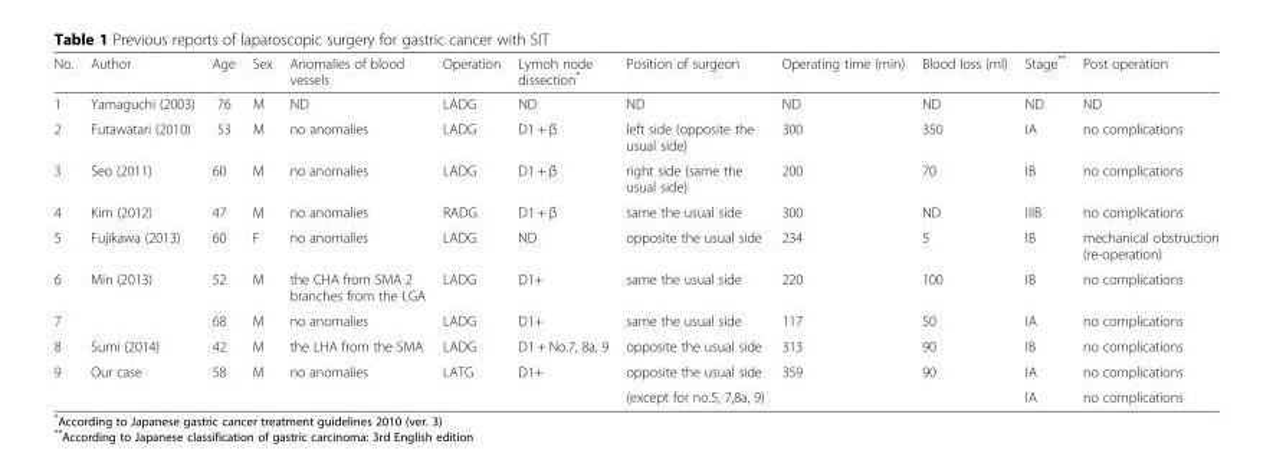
<table><thead><tr><td>No.</td><td>Author</td><td>Age</td><td>Sex</td><td>Anomalies of blood vessels</td><td>Operation</td><td>Lymoh node dissection*</td><td>Position of surgeon</td><td>Operating time (min)</td><td>Blood loss (ml)</td><td>Stage**</td><td>Post operation</td></tr></thead><tbody><tr><td>1</td><td>Yamaguchi (2003)</td><td>76</td><td>M</td><td>ND</td><td>LADG</td><td>ND</td><td>ND</td><td>ND</td><td>ND</td><td>ND</td><td>ND</td></tr><tr><td>2</td><td>Futawatari (2010)</td><td>53</td><td>M</td><td>no anomalies</td><td>LADG</td><td>D1 + β</td><td>left side (opposite the usual side)</td><td>300</td><td>350</td><td>IA</td><td>no complications</td></tr><tr><td>3</td><td>Seo (2011)</td><td>60</td><td>M</td><td>no anomalies</td><td>LADG</td><td>D1 + β</td><td>right side (same the usual side)</td><td>200</td><td>70</td><td>IB</td><td>no complications</td></tr><tr><td>4</td><td>Kim (2012)</td><td>47</td><td>M</td><td>no anomalies</td><td>RADG</td><td>D1 + β</td><td>same the usual side</td><td>300</td><td>ND</td><td>IIIB</td><td>no complications</td></tr><tr><td>5</td><td>Fujikawa (2013)</td><td>60</td><td>F</td><td>no anomalies</td><td>LADG</td><td>ND</td><td>opposite the usual side</td><td>234</td><td>5</td><td>IB</td><td>mechanical obstruction (re-operation)</td></tr><tr><td>6</td><td>Min (2013)</td><td>52</td><td>M</td><td>the CHA from SMA 2 branches from the LGA</td><td>LADG</td><td>D1+</td><td>same the usual side</td><td>220</td><td>100</td><td>IB</td><td>no complications</td></tr><tr><td>7</td><td></td><td>68</td><td>M</td><td>no anomalies</td><td>LADG</td><td>D1+</td><td>same the usual side</td><td>117</td><td>50</td><td>IA</td><td>no complications</td></tr><tr><td>8</td><td>Sumi (2014)</td><td>42</td><td>M</td><td>the LHA from the SMA</td><td>LADG</td><td>D1 + No.7, 8a, 9</td><td>opposite the usual side</td><td>313</td><td>90</td><td>IB</td><td>no complications</td></tr><tr><td rowspan="2">9</td><td>Our case</td><td>58</td><td>M</td><td>no anomalies</td><td>LATG</td><td>D1+</td><td>opposite the usual side</td><td>359</td><td>90</td><td>IA</td><td>no complications</td></tr><tr><td></td><td></td><td></td><td></td><td></td><td></td><td>(except for no.5, 7,8a, 9)</td><td></td><td></td><td>IA</td><td>no complications</td></tr></tbody></table>